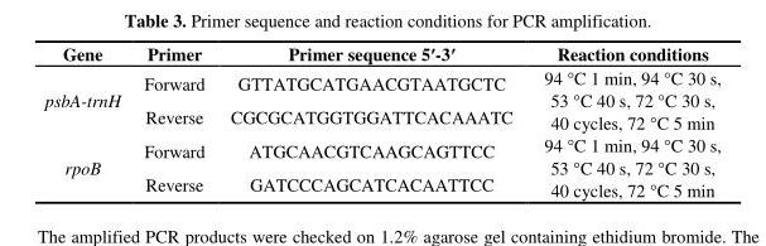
<table><thead><tr><td>Gene</td><td>Primer</td><td>Primer sequence 5′-3′</td><td>Reaction conditions</td></tr></thead><tbody><tr><td rowspan="2">psbA-trnH</td><td>Forward</td><td>GTTATGCATGAACGTAATGCTC</td><td rowspan="2">94 °C 1 min, 94 °C 30 s, 53 °C 40 s, 72 °C 30 s, 40 cycles, 72 °C 5 min</td></tr><tr><td>Reverse</td><td>CGCGCATGGTGGATTCACAAATC</td></tr><tr><td rowspan="2">rpoB</td><td>Forward</td><td>ATGCAACGTCAAGCAGTTCC</td><td rowspan="2">94 °C 1 min, 94 °C 30 s, 53 °C 40 s, 72 °C 30 s, 40 cycles, 72 °C 5 min</td></tr><tr><td>Reverse</td><td>GATCCCAGCATCACAATTCC</td></tr></tbody></table>